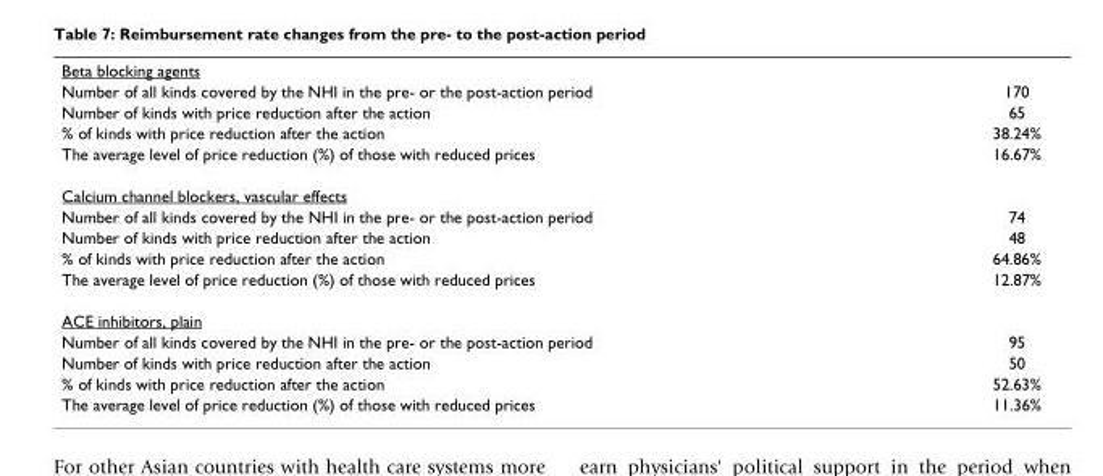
<table><tbody><tr><td colspan="2">Beta blocking agents</td></tr><tr><td>Number of all kinds covered by the NHI in the pre- or the post-action period</td><td>170</td></tr><tr><td>Number of kinds with price reduction after the action</td><td>65</td></tr><tr><td>% of kinds with price reduction after the action</td><td>38.24%</td></tr><tr><td>The average level of price reduction (%) of those with reduced prices</td><td>16.67%</td></tr><tr><td colspan="2">Calcium channel blockers, vascular effects</td></tr><tr><td>Number of all kinds covered by the NHI in the pre- or the post-action period</td><td>74</td></tr><tr><td>Number of kinds with price reduction after the action</td><td>48</td></tr><tr><td>% of kinds with price reduction after the action</td><td>64.86%</td></tr><tr><td>The average level of price reduction (%) of those with reduced prices</td><td>12.87%</td></tr><tr><td colspan="2">ACE inhibitors, plain</td></tr><tr><td>Number of all kinds covered by the NHI in the pre- or the post-action period</td><td>95</td></tr><tr><td>Number of kinds with price reduction after the action</td><td>50</td></tr><tr><td>% of kinds with price reduction after the action</td><td>52.63%</td></tr><tr><td>The average level of price reduction (%) of those with reduced prices</td><td>11.36%</td></tr></tbody></table>